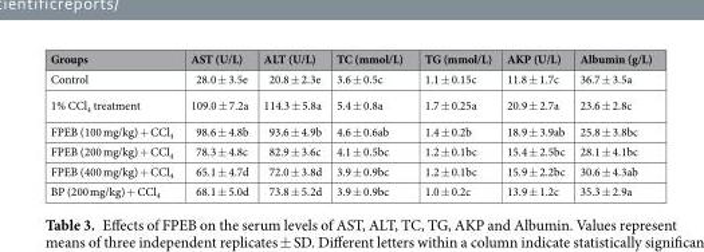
<table><thead><tr><td>Groups</td><td>AST (U/L)</td><td>ALT (U/L)</td><td>TC (mmol/L)</td><td>TG (mmol/L)</td><td>AKP (U/L)</td><td>Albumin (g/L)</td></tr></thead><tbody><tr><td>Control</td><td>28.0 ± 3.5e</td><td>20.8 ± 2.3e</td><td>3.6 ± 0.5c</td><td>1.1 ± 0.15c</td><td>11.8 ± 1.7c</td><td>36.7 ± 3.5a</td></tr><tr><td>1% CCl<sub>4</sub> treatment</td><td>109.0 ± 7.2a</td><td>114.3 ± 5.8a</td><td>5.4 ± 0.8a</td><td>1.7 ± 0.25a</td><td>20.9 ± 2.7a</td><td>23.6 ± 2.8c</td></tr><tr><td>FPEB (100 mg/kg) + CCl<sub>4</sub></td><td>98.6 ± 4.8b</td><td>93.6 ± 4.9b</td><td>4.6 ± 0.6ab</td><td>1.4 ± 0.2b</td><td>18.9 ± 3.9ab</td><td>25.8 ± 3.8bc</td></tr><tr><td>FPEB (200 mg/kg) + CCl<sub>4</sub></td><td>78.3 ± 4.8c</td><td>82.9 ± 3.6c</td><td>4.1 ± 0.5bc</td><td>1.2 ± 0.1bc</td><td>15.4 ± 2.5bc</td><td>28.1 ± 4.1bc</td></tr><tr><td>FPEB (400 mg/kg) + CCl<sub>4</sub></td><td>65.1 ± 4.7d</td><td>72.0 ± 3.8d</td><td>3.9 ± 0.9bc</td><td>1.2 ± 0.1bc</td><td>15.9 ± 2.2bc</td><td>30.6 ± 4.3ab</td></tr><tr><td>BP (200 mg/kg) + CCl<sub>4</sub></td><td>68.1 ± 5.0d</td><td>73.8 ± 5.2d</td><td>3.9 ± 0.9bc</td><td>1.0 ± 0.2c</td><td>13.9 ± 1.2c</td><td>35.3 ± 2.9a</td></tr></tbody></table>